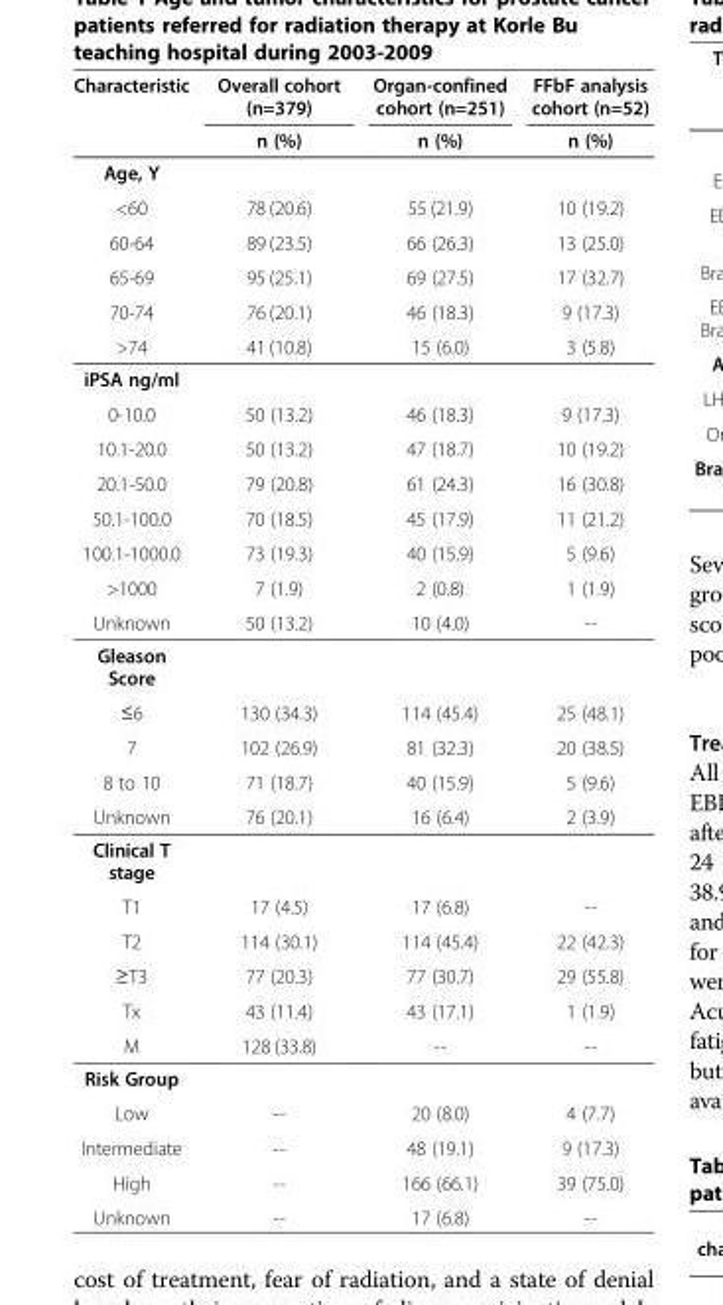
<table><thead><tr><td rowspan="2">Characteristic</td><td rowspan="2">Overall cohort (n=379) n (%)</td><td rowspan="2">Organ-confined cohort (n=251) n (%)</td><td rowspan="2">FFbF analysis cohort (n=52) n (%)</td></tr><tr></tr></thead><tbody><tr><td colspan="4">Age, Y</td></tr><tr><td>&lt;60</td><td>78 (20.6)</td><td>55 (21.9)</td><td>10 (19.2)</td></tr><tr><td>60-64</td><td>89 (23.5)</td><td>66 (26.3)</td><td>13 (25.0)</td></tr><tr><td>65-69</td><td>95 (25.1)</td><td>69 (27.5)</td><td>17 (32.7)</td></tr><tr><td>70-74</td><td>76 (20.1)</td><td>46 (18.3)</td><td>9 (17.3)</td></tr><tr><td>&gt;74</td><td>41 (10.8)</td><td>15 (6.0)</td><td>3 (5.8)</td></tr><tr><td colspan="4">iPSA ng/ml</td></tr><tr><td>0-10.0</td><td>50 (13.2)</td><td>46 (18.3)</td><td>9 (17.3)</td></tr><tr><td>10.1-20.0</td><td>50 (13.2)</td><td>47 (18.7)</td><td>10 (19.2)</td></tr><tr><td>20.1-50.0</td><td>79 (20.8)</td><td>61 (24.3)</td><td>16 (30.8)</td></tr><tr><td>50.1-100.0</td><td>70 (18.5)</td><td>45 (17.9)</td><td>11 (21.2)</td></tr><tr><td>100.1-1000.0</td><td>73 (19.3)</td><td>40 (15.9)</td><td>5 (9.6)</td></tr><tr><td>&gt;1000</td><td>7 (1.9)</td><td>2 (0.8)</td><td>1 (1.9)</td></tr><tr><td>Unknown</td><td>50 (13.2)</td><td>10 (4.0)</td><td>--</td></tr><tr><td colspan="4">Gleason Score</td></tr><tr><td>≤6</td><td>130 (34.3)</td><td>114 (45.4)</td><td>25 (48.1)</td></tr><tr><td>7</td><td>102 (26.9)</td><td>81 (32.3)</td><td>20 (38.5)</td></tr><tr><td>8 to 10</td><td>71 (18.7)</td><td>40 (15.9)</td><td>5 (9.6)</td></tr><tr><td>Unknown</td><td>76 (20.1)</td><td>16 (6.4)</td><td>2 (3.9)</td></tr><tr><td colspan="4">Clinical T stage</td></tr><tr><td>T1</td><td>17 (4.5)</td><td>17 (6.8)</td><td>--</td></tr><tr><td>T2</td><td>114 (30.1)</td><td>114 (45.4)</td><td>22 (42.3)</td></tr><tr><td>≥T3</td><td>77 (20.3)</td><td>77 (30.7)</td><td>29 (55.8)</td></tr><tr><td>Tx</td><td>43 (11.4)</td><td>43 (17.1)</td><td>1 (1.9)</td></tr><tr><td>M</td><td>128 (33.8)</td><td>--</td><td>--</td></tr><tr><td colspan="4">Risk Group</td></tr><tr><td>Low</td><td>--</td><td>20 (8.0)</td><td>4 (7.7)</td></tr><tr><td>Intermediate</td><td>--</td><td>48 (19.1)</td><td>9 (17.3)</td></tr><tr><td>High</td><td>--</td><td>166 (66.1)</td><td>39 (75.0)</td></tr><tr><td>Unknown</td><td>--</td><td>17 (6.8)</td><td>--</td></tr></tbody></table>